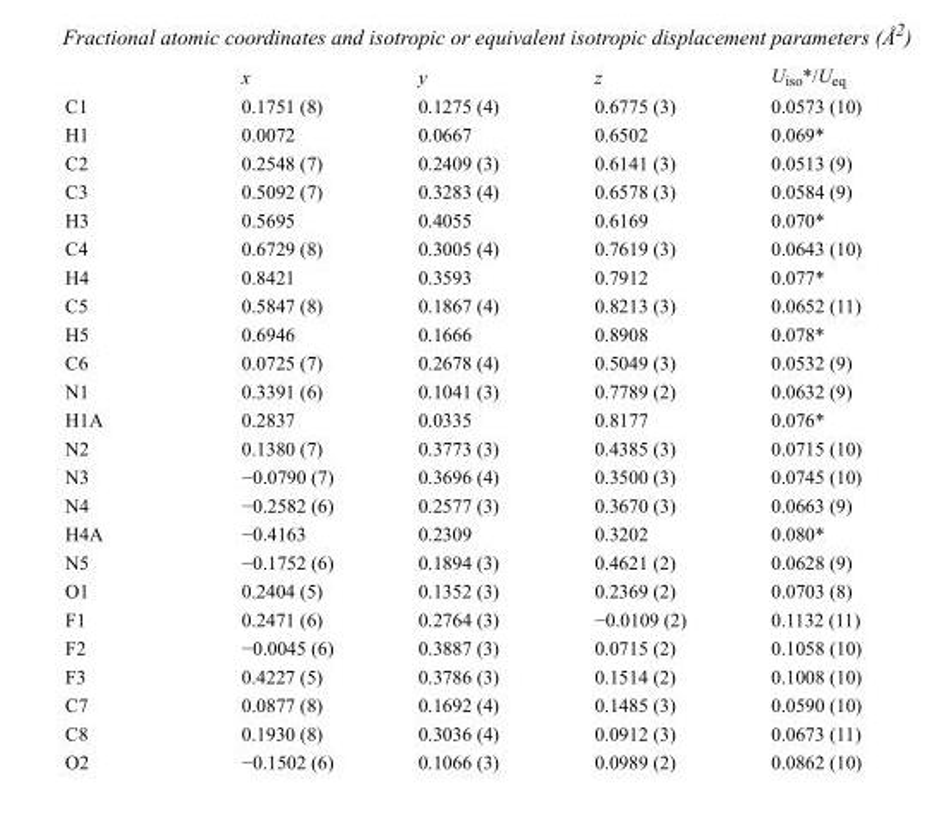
<table><thead><tr><td></td><td>x</td><td>y</td><td>z</td><td>U<sub>iso</sub>*/U<sub>eq</sub></td></tr></thead><tbody><tr><td>C1</td><td>0.1751 (8)</td><td>0.1275 (4)</td><td>0.6775 (3)</td><td>0.0573 (10)</td></tr><tr><td>H1</td><td>0.0072</td><td>0.0667</td><td>0.6502</td><td>0.069*</td></tr><tr><td>C2</td><td>0.2548 (7)</td><td>0.2409 (3)</td><td>0.6141 (3)</td><td>0.0513 (9)</td></tr><tr><td>C3</td><td>0.5092 (7)</td><td>0.3283 (4)</td><td>0.6578 (3)</td><td>0.0584 (9)</td></tr><tr><td>H3</td><td>0.5695</td><td>0.4055</td><td>0.6169</td><td>0.070*</td></tr><tr><td>C4</td><td>0.6729 (8)</td><td>0.3005 (4)</td><td>0.7619 (3)</td><td>0.0643 (10)</td></tr><tr><td>H4</td><td>0.8421</td><td>0.3593</td><td>0.7912</td><td>0.077*</td></tr><tr><td>C5</td><td>0.5847 (8)</td><td>0.1867 (4)</td><td>0.8213 (3)</td><td>0.0652 (11)</td></tr><tr><td>H5</td><td>0.6946</td><td>0.1666</td><td>0.8908</td><td>0.078*</td></tr><tr><td>C6</td><td>0.0725 (7)</td><td>0.2678 (4)</td><td>0.5049 (3)</td><td>0.0532 (9)</td></tr><tr><td>N1</td><td>0.3391 (6)</td><td>0.1041 (3)</td><td>0.7789 (2)</td><td>0.0632 (9)</td></tr><tr><td>H1A</td><td>0.2837</td><td>0.0335</td><td>0.8177</td><td>0.076*</td></tr><tr><td>N2</td><td>0.1380 (7)</td><td>0.3773 (3)</td><td>0.4385 (3)</td><td>0.0715 (10)</td></tr><tr><td>N3</td><td>−0.0790 (7)</td><td>0.3696 (4)</td><td>0.3500 (3)</td><td>0.0745 (10)</td></tr><tr><td>N4</td><td>−0.2582 (6)</td><td>0.2577 (3)</td><td>0.3670 (3)</td><td>0.0663 (9)</td></tr><tr><td>H4A</td><td>−0.4163</td><td>0.2309</td><td>0.3202</td><td>0.080*</td></tr><tr><td>N5</td><td>−0.1752 (6)</td><td>0.1894 (3)</td><td>0.4621 (2)</td><td>0.0628 (9)</td></tr><tr><td>O1</td><td>0.2404 (5)</td><td>0.1352 (3)</td><td>0.2369 (2)</td><td>0.0703 (8)</td></tr><tr><td>F1</td><td>0.2471 (6)</td><td>0.2764 (3)</td><td>−0.0109 (2)</td><td>0.1132 (11)</td></tr><tr><td>F2</td><td>−0.0045 (6)</td><td>0.3887 (3)</td><td>0.0715 (2)</td><td>0.1058 (10)</td></tr><tr><td>F3</td><td>0.4227 (5)</td><td>0.3786 (3)</td><td>0.1514 (2)</td><td>0.1008 (10)</td></tr><tr><td>C7</td><td>0.0877 (8)</td><td>0.1692 (4)</td><td>0.1485 (3)</td><td>0.0590 (10)</td></tr><tr><td>C8</td><td>0.1930 (8)</td><td>0.3036 (4)</td><td>0.0912 (3)</td><td>0.0673 (11)</td></tr><tr><td>O2</td><td>−0.1502 (6)</td><td>0.1066 (3)</td><td>0.0989 (2)</td><td>0.0862 (10)</td></tr></tbody></table>